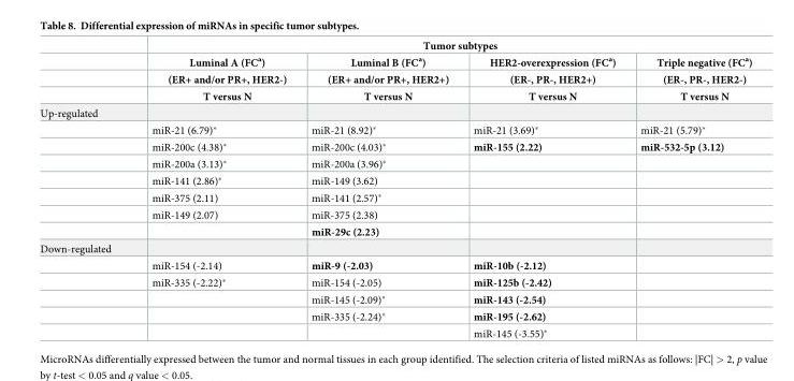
<table><thead><tr><td rowspan="4"></td><td colspan="4">Tumor subtypes</td></tr><tr><td rowspan="3">Luminal A (FC<sup>a</sup>) (ER+ and/or PR+, HER2-) T versus N</td><td rowspan="3">Luminal B (FC<sup>a</sup>) (ER+ and/or PR+, HER2+) T versus N</td><td rowspan="3">HER2-overexpression (FC<sup>a</sup>) (ER-, PR-, HER2+) T versus N</td><td rowspan="3">Triple negative (FC<sup>a</sup>) (ER-, PR-, HER2-) T versus N</td></tr><tr></tr><tr></tr></thead><tbody><tr><td colspan="5">Up-regulated</td></tr><tr><td></td><td>miR-21 (6.79)*</td><td>miR-21 (8.92)*</td><td>miR-21 (3.69)*</td><td>miR-21 (5.79)*</td></tr><tr><td></td><td>miR-200c (4.38)*</td><td>miR-200c (4.03)*</td><td>miR-155 (2.22)</td><td>miR-532-5p (3.12)</td></tr><tr><td></td><td>miR-200a (3.13)*</td><td>miR-200a (3.96)*</td><td></td><td></td></tr><tr><td></td><td>miR-141 (2.86)*</td><td>miR-149 (3.62)</td><td></td><td></td></tr><tr><td></td><td>miR-375 (2.11)</td><td>miR-141 (2.57)*</td><td></td><td></td></tr><tr><td></td><td>miR-149 (2.07)</td><td>miR-375 (2.38)</td><td></td><td></td></tr><tr><td></td><td></td><td>miR-29c (2.23)</td><td></td><td></td></tr><tr><td colspan="5">Down-regulated</td></tr><tr><td></td><td>miR-154 (-2.14)</td><td>miR-9 (-2.03)</td><td>miR-10b (-2.12)</td><td></td></tr><tr><td></td><td>miR-335 (-2.22)*</td><td>miR-154 (-2.05)</td><td>miR-125b (-2.42)</td><td></td></tr><tr><td></td><td></td><td>miR-145 (-2.09)*</td><td>miR-143 (-2.54)</td><td></td></tr><tr><td></td><td></td><td>miR-335 (-2.24)*</td><td>miR-195 (-2.62)</td><td></td></tr><tr><td></td><td></td><td></td><td>miR-145 (-3.55)*</td><td></td></tr></tbody></table>